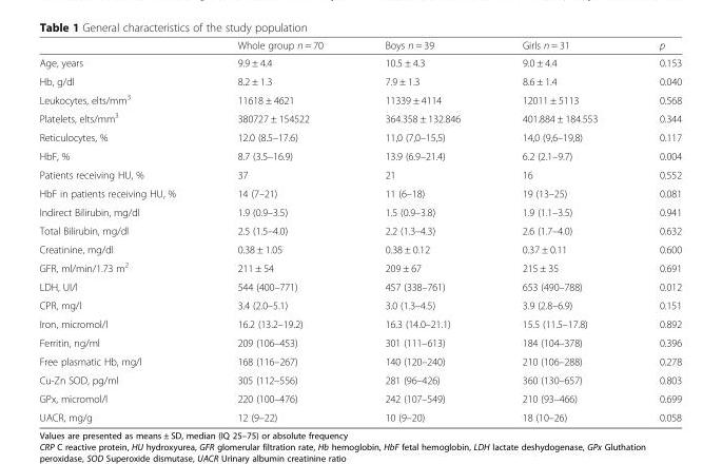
<table><thead><tr><td></td><td>Whole group n = 70</td><td>Boys n = 39</td><td>Girls n = 31</td><td>p</td></tr></thead><tbody><tr><td>Age, years</td><td>9.9 ± 4.4</td><td>10.5 ± 4.3</td><td>9.0 ± 4.4</td><td>0.153</td></tr><tr><td>Hb, g/dl</td><td>8.2 ± 1.3</td><td>7.9 ± 1.3</td><td>8.6 ± 1.4</td><td>0.040</td></tr><tr><td>Leukocytes, elts/mm<sup>3</sup></td><td>11618 ± 4621</td><td>11339 ± 4114</td><td>12011 ± 5113</td><td>0.568</td></tr><tr><td>Platelets, elts/mm<sup>3</sup></td><td>380727 ± 154522</td><td>364.358 ± 132.846</td><td>401.884 ± 184.553</td><td>0.344</td></tr><tr><td>Reticulocytes, %</td><td>12.0 (8.5–17.6)</td><td>11,0 (7,0–15,5)</td><td>14,0 (9,6–19,8)</td><td>0.117</td></tr><tr><td>HbF, %</td><td>8.7 (3.5–16.9)</td><td>13.9 (6.9–21.4)</td><td>6.2 (2.1–9.7)</td><td>0.004</td></tr><tr><td>Patients receiving HU, %</td><td>37</td><td>21</td><td>16</td><td>0.552</td></tr><tr><td>HbF in patients receiving HU, %</td><td>14 (7–21)</td><td>11 (6–18)</td><td>19 (13–25)</td><td>0.081</td></tr><tr><td>Indirect Bilirubin, mg/dl</td><td>1.9 (0.9–3.5)</td><td>1.5 (0.9–3.8)</td><td>1.9 (1.1–3.5)</td><td>0.941</td></tr><tr><td>Total Bilirubin, mg/dl</td><td>2.5 (1.5–4.0)</td><td>2.2 (1.3–4.3)</td><td>2.6 (1.7–4.0)</td><td>0.632</td></tr><tr><td>Creatinine, mg/dl</td><td>0.38 ± 1.05</td><td>0.38 ± 0.12</td><td>0.37 ± 0.11</td><td>0.600</td></tr><tr><td>GFR, ml/min/1.73 m<sup>2</sup></td><td>211 ± 54</td><td>209 ± 67</td><td>215 ± 35</td><td>0.691</td></tr><tr><td>LDH, UI/l</td><td>544 (400–771)</td><td>457 (338–761)</td><td>653 (490–788)</td><td>0.012</td></tr><tr><td>CPR, mg/l</td><td>3.4 (2.0–5.1)</td><td>3.0 (1.3–4.5)</td><td>3.9 (2.8–6.9)</td><td>0.151</td></tr><tr><td>Iron, micromol/l</td><td>16.2 (13.2–19.2)</td><td>16.3 (14.0–21.1)</td><td>15.5 (11.5–17.8)</td><td>0.892</td></tr><tr><td>Ferritin, ng/ml</td><td>209 (106–453)</td><td>301 (111–613)</td><td>184 (104–378)</td><td>0.396</td></tr><tr><td>Free plasmatic Hb, mg/l</td><td>168 (116–267)</td><td>140 (120–240)</td><td>210 (106–288)</td><td>0.278</td></tr><tr><td>Cu-Zn SOD, pg/ml</td><td>305 (112–556)</td><td>281 (96–426)</td><td>360 (130–657)</td><td>0.803</td></tr><tr><td>GPx, micromol/l</td><td>220 (100–476)</td><td>242 (107–549)</td><td>210 (93–466)</td><td>0.699</td></tr><tr><td>UACR, mg/g</td><td>12 (9–22)</td><td>10 (9–20)</td><td>18 (10–26)</td><td>0.058</td></tr></tbody></table>